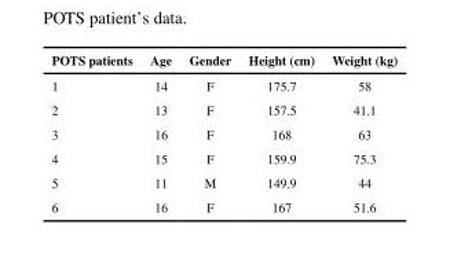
<table><thead><tr><td>POTS patients</td><td>Age</td><td>Gender</td><td>Height (cm)</td><td>Weight (kg)</td></tr></thead><tbody><tr><td>1</td><td>14</td><td>F</td><td>175.7</td><td>58</td></tr><tr><td>2</td><td>13</td><td>F</td><td>157.5</td><td>41.1</td></tr><tr><td>3</td><td>16</td><td>F</td><td>168</td><td>63</td></tr><tr><td>4</td><td>15</td><td>F</td><td>159.9</td><td>75.3</td></tr><tr><td>5</td><td>11</td><td>M</td><td>149.9</td><td>44</td></tr><tr><td>6</td><td>16</td><td>F</td><td>167</td><td>51.6</td></tr></tbody></table>